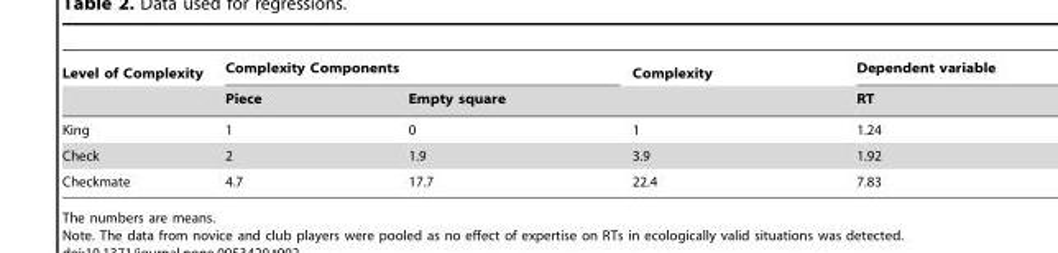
<table><thead><tr><td rowspan="2">Level of Complexity</td><td colspan="2">Complexity Components</td><td rowspan="2">Complexity</td><td rowspan="2">Dependent variable RT</td></tr><tr><td>Piece</td><td>Empty square</td></tr></thead><tbody><tr><td>King</td><td>1</td><td>0</td><td>1</td><td>1.24</td></tr><tr><td>Check</td><td>2</td><td>1.9</td><td>3.9</td><td>1.92</td></tr><tr><td>Checkmate</td><td>4.7</td><td>17.7</td><td>22.4</td><td>7.83</td></tr></tbody></table>